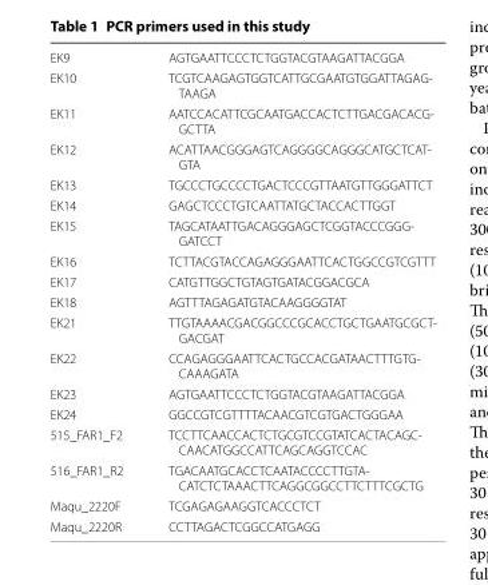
<table><tbody><tr><td>EK9</td><td>AGTGAATTCCCTCTGGTACGTAAGATTACGGA</td></tr><tr><td>EK10</td><td>TCGTCAAGAGTGGTCATTGCGAATGTGGATTAGAG- TAAGA</td></tr><tr><td>EK11</td><td>AATCCACATTCGCAATGACCACTCTTGACGACACG- GCTTA</td></tr><tr><td>EK12</td><td>ACATTAACGGGAGTCAGGGGCAGGGCATGCTCAT- GTA</td></tr><tr><td>EK13</td><td>TGCCCTGCCCCTGACTCCCGTTAATGTTGGGATTCT</td></tr><tr><td>EK14</td><td>GAGCTCCCTGTCAATTATGCTACCACTTGGT</td></tr><tr><td>EK15</td><td>TAGCATAATTGACAGGGAGCTCGGTACCCGGG- GATCCT</td></tr><tr><td>EK16</td><td>TCTTACGTACCAGAGGGAATTCACTGGCCGTCGTTT</td></tr><tr><td>EK17</td><td>CATGTTGGCTGTAGTGATACGGACGCA</td></tr><tr><td>EK18</td><td>AGTTTAGAGATGTACAAGGGGTAT</td></tr><tr><td>EK21</td><td>TTGTAAAACGACGGCCCGCACCTGCTGAATGCGCT- GACGAT</td></tr><tr><td>EK22</td><td>CCAGAGGGAATTCACTGCCACGATAACTTTGTG- CAAAGATA</td></tr><tr><td>EK23</td><td>AGTGAATTCCCTCTGGTACGTAAGATTACGGA</td></tr><tr><td>EK24</td><td>GGCCGTCGTTTTACAACGTCGTGACTGGGAA</td></tr><tr><td>515_FAR1_F2</td><td>TCCTTCAACCACTCTGCGTCCGTATCACTACAGC- CAACATGGCCATTCAGCAGGTCCAC</td></tr><tr><td>516_FAR1_R2</td><td>TGACAATGCACCTCAATACCCCTTGTA- CATCTCTAAACTTCAGGCGGCCTTCTTTCGCTG</td></tr><tr><td>Maqu_2220F</td><td>TCGAGAGAAGGTCACCCTCT</td></tr><tr><td>Maqu_2220R</td><td>CCTTAGACTCGGCCATGAGG</td></tr></tbody></table>